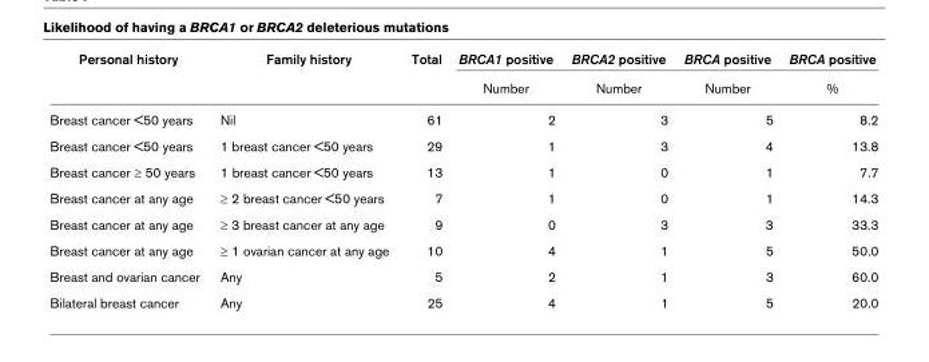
<table><thead><tr><td rowspan="2">Personal history</td><td rowspan="2">Family history</td><td rowspan="2">Total</td><td rowspan="2">BRCA1 positive Number</td><td rowspan="2">BRCA2 positive Number</td><td rowspan="2">BRCA positive Number</td><td rowspan="2">BRCA positive %</td></tr><tr></tr></thead><tbody><tr><td>Breast cancer &lt;50 years</td><td>Nil</td><td>61</td><td>2</td><td>3</td><td>5</td><td>8.2</td></tr><tr><td>Breast cancer &lt;50 years</td><td>1 breast cancer &lt;50 years</td><td>29</td><td>1</td><td>3</td><td>4</td><td>13.8</td></tr><tr><td>Breast cancer ≥ 50 years</td><td>1 breast cancer &lt;50 years</td><td>13</td><td>1</td><td>0</td><td>1</td><td>7.7</td></tr><tr><td>Breast cancer at any age</td><td>≥ 2 breast cancer &lt;50 years</td><td>7</td><td>1</td><td>0</td><td>1</td><td>14.3</td></tr><tr><td>Breast cancer at any age</td><td>≥ 3 breast cancer at any age</td><td>9</td><td>0</td><td>3</td><td>3</td><td>33.3</td></tr><tr><td>Breast cancer at any age</td><td>≥ 1 ovarian cancer at any age</td><td>10</td><td>4</td><td>1</td><td>5</td><td>50.0</td></tr><tr><td>Breast and ovarian cancer</td><td>Any</td><td>5</td><td>2</td><td>1</td><td>3</td><td>60.0</td></tr><tr><td>Bilateral breast cancer</td><td>Any</td><td>25</td><td>4</td><td>1</td><td>5</td><td>20.0</td></tr></tbody></table>